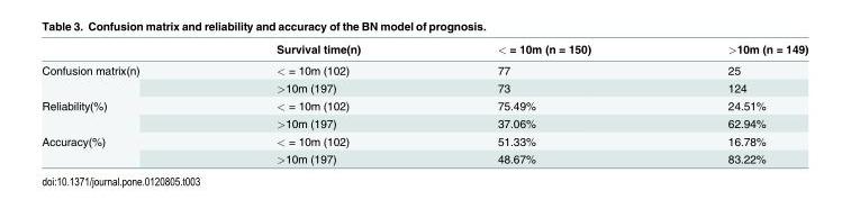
<table><thead><tr><td></td><td>Survival time(n)</td><td>&lt; = 10m (n = 150)</td><td>&gt;10m (n = 149)</td></tr></thead><tbody><tr><td rowspan="2">Confusion matrix(n)</td><td>&lt; = 10m (102)</td><td>77</td><td>25</td></tr><tr><td>&gt;10m (197)</td><td>73</td><td>124</td></tr><tr><td rowspan="2">Reliability(%)</td><td>&lt; = 10m (102)</td><td>75.49%</td><td>24.51%</td></tr><tr><td>&gt;10m (197)</td><td>37.06%</td><td>62.94%</td></tr><tr><td rowspan="2">Accuracy(%)</td><td>&lt; = 10m (102)</td><td>51.33%</td><td>16.78%</td></tr><tr><td>&gt;10m (197)</td><td>48.67%</td><td>83.22%</td></tr></tbody></table>